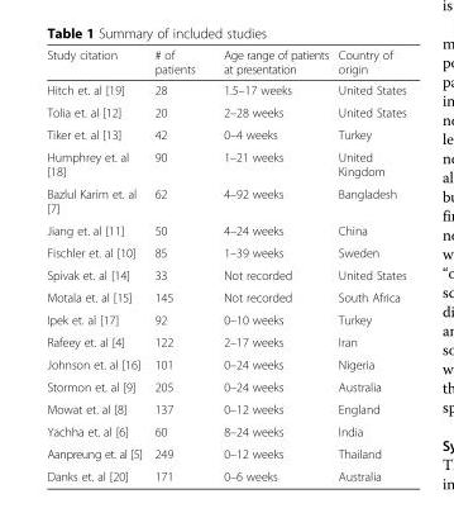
<table><thead><tr><td>Study citation</td><td># of patients</td><td>Age range of patients at presentation</td><td>Country of origin</td></tr></thead><tbody><tr><td>Hitch et. al [19]</td><td>28</td><td>1.5–17 weeks</td><td>United States</td></tr><tr><td>Tolia et. al [12]</td><td>20</td><td>2–28 weeks</td><td>United States</td></tr><tr><td>Tiker et. al [13]</td><td>42</td><td>0–4 weeks</td><td>Turkey</td></tr><tr><td>Humphrey et. al [18]</td><td>90</td><td>1–21 weeks</td><td>United Kingdom</td></tr><tr><td>Bazlul Karim et. al [7]</td><td>62</td><td>4–92 weeks</td><td>Bangladesh</td></tr><tr><td>Jiang et. al [11]</td><td>50</td><td>4–24 weeks</td><td>China</td></tr><tr><td>Fischler et. al [10]</td><td>85</td><td>1–39 weeks</td><td>Sweden</td></tr><tr><td>Spivak et. al [14]</td><td>33</td><td>Not recorded</td><td>United States</td></tr><tr><td>Motala et. al [15]</td><td>145</td><td>Not recorded</td><td>South Africa</td></tr><tr><td>Ipek et. al [17]</td><td>92</td><td>0–10 weeks</td><td>Turkey</td></tr><tr><td>Rafeey et. al [4]</td><td>122</td><td>2–17 weeks</td><td>Iran</td></tr><tr><td>Johnson et. al [16]</td><td>101</td><td>0–24 weeks</td><td>Nigeria</td></tr><tr><td>Stormon et. al [9]</td><td>205</td><td>0–24 weeks</td><td>Australia</td></tr><tr><td>Mowat et. al [8]</td><td>137</td><td>0–12 weeks</td><td>England</td></tr><tr><td>Yachha et. al [6]</td><td>60</td><td>8–24 weeks</td><td>India</td></tr><tr><td>Aanpreung et. al [5]</td><td>249</td><td>0–12 weeks</td><td>Thailand</td></tr><tr><td>Danks et. al [20]</td><td>171</td><td>0–6 weeks</td><td>Australia</td></tr></tbody></table>